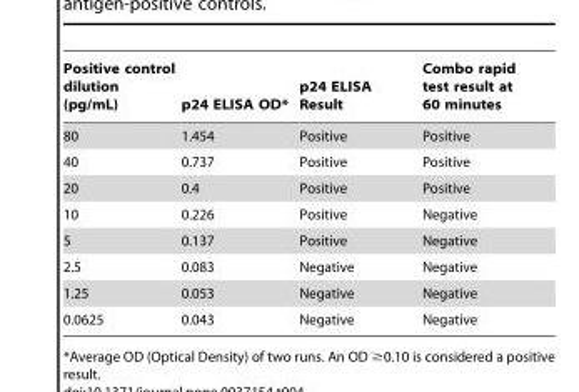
<table><thead><tr><td>Positive control dilution (pg/mL)</td><td>p24 ELISA OD*</td><td>p24 ELISA Result</td><td>Combo rapid test result at 60 minutes</td></tr></thead><tbody><tr><td>80</td><td>1.454</td><td>Positive</td><td>Positive</td></tr><tr><td>40</td><td>0.737</td><td>Positive</td><td>Positive</td></tr><tr><td>20</td><td>0.4</td><td>Positive</td><td>Positive</td></tr><tr><td>10</td><td>0.226</td><td>Positive</td><td>Negative</td></tr><tr><td>5</td><td>0.137</td><td>Positive</td><td>Negative</td></tr><tr><td>2.5</td><td>0.083</td><td>Negative</td><td>Negative</td></tr><tr><td>1.25</td><td>0.053</td><td>Negative</td><td>Negative</td></tr><tr><td>0.0625</td><td>0.043</td><td>Negative</td><td>Negative</td></tr></tbody></table>